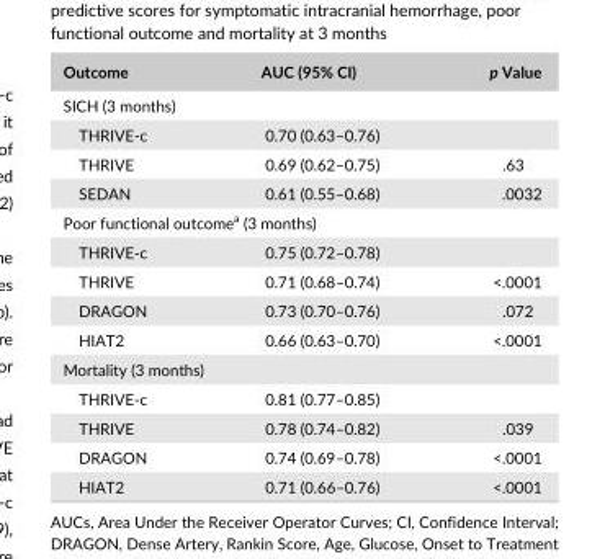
<table><thead><tr><td>Outcome</td><td>AUC (95% CI)</td><td>p Value</td></tr></thead><tbody><tr><td colspan="3">SICH (3 months)</td></tr><tr><td>THRIVE- c</td><td>0.70 (0.63–0.76)</td><td></td></tr><tr><td>THRIVE</td><td>0.69 (0.62–0.75)</td><td>.63</td></tr><tr><td>SEDAN</td><td>0.61 (0.55–0.68)</td><td>.0032</td></tr><tr><td colspan="3">Poor functional outcome<sup>a</sup> (3 months)</td></tr><tr><td>THRIVE- c</td><td>0.75 (0.72–0.78)</td><td></td></tr><tr><td>THRIVE</td><td>0.71 (0.68–0.74)</td><td>&lt;.0001</td></tr><tr><td>DRAGON</td><td>0.73 (0.70–0.76)</td><td>.072</td></tr><tr><td>HIAT2</td><td>0.66 (0.63–0.70)</td><td>&lt;.0001</td></tr><tr><td colspan="3">Mortality (3 months)</td></tr><tr><td>THRIVE- c</td><td>0.81 (0.77–0.85)</td><td></td></tr><tr><td>THRIVE</td><td>0.78 (0.74–0.82)</td><td>.039</td></tr><tr><td>DRAGON</td><td>0.74 (0.69–0.78)</td><td>&lt;.0001</td></tr><tr><td>HIAT2</td><td>0.71 (0.66–0.76)</td><td>&lt;.0001</td></tr></tbody></table>